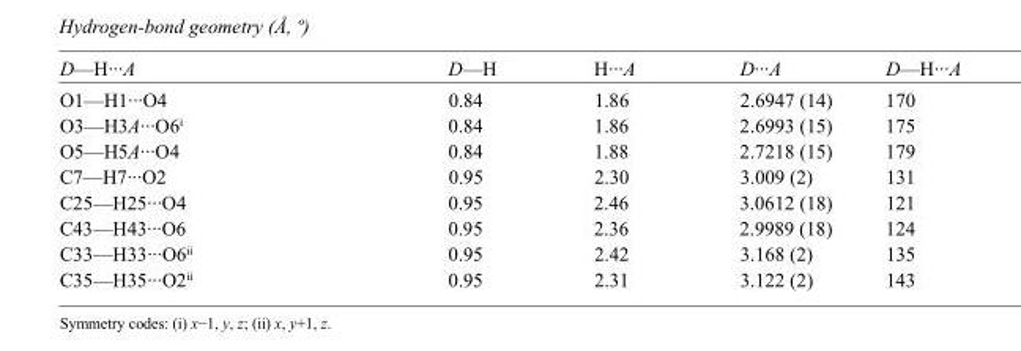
<table><tbody><tr><td>D—H···A</td><td>D—H</td><td>H···A</td><td>D···A</td><td>D—H···A</td></tr><tr><td>O1—H1···O4</td><td>0.84</td><td>1.86</td><td>2.6947 (14)</td><td>170</td></tr><tr><td>O3—H3A···O6<sup>i</sup></td><td>0.84</td><td>1.86</td><td>2.6993 (15)</td><td>175</td></tr><tr><td>O5—H5A···O4</td><td>0.84</td><td>1.88</td><td>2.7218 (15)</td><td>179</td></tr><tr><td>C7—H7···O2</td><td>0.95</td><td>2.30</td><td>3.009 (2)</td><td>131</td></tr><tr><td>C25—H25···O4</td><td>0.95</td><td>2.46</td><td>3.0612 (18)</td><td>121</td></tr><tr><td>C43—H43···O6</td><td>0.95</td><td>2.36</td><td>2.9989 (18)</td><td>124</td></tr><tr><td>C33—H33···O6<sup>ii</sup></td><td>0.95</td><td>2.42</td><td>3.168 (2)</td><td>135</td></tr><tr><td>C35—H35···O2<sup>ii</sup></td><td>0.95</td><td>2.31</td><td>3.122 (2)</td><td>143</td></tr></tbody></table>